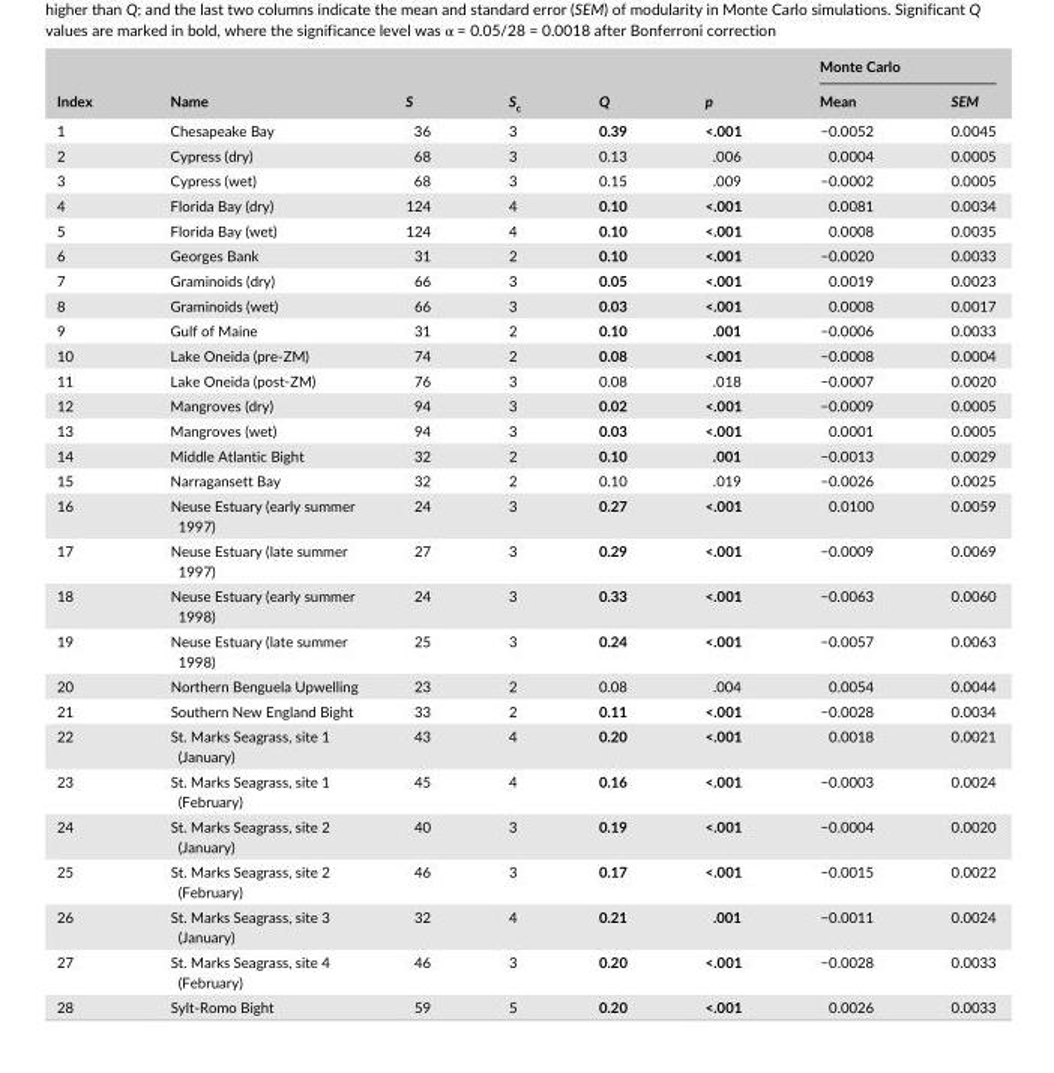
<table><thead><tr><td rowspan="2">Index</td><td rowspan="2">Name</td><td rowspan="2">S</td><td rowspan="2">S<sub>c</sub></td><td rowspan="2">Q</td><td rowspan="2">p</td><td colspan="2">Monte Carlo</td></tr><tr><td>Mean</td><td>SEM</td></tr></thead><tbody><tr><td>1</td><td>Chesapeake Bay</td><td>36</td><td>3</td><td>0.39</td><td>&lt;.001</td><td>−0.0052</td><td>0.0045</td></tr><tr><td>2</td><td>Cypress (dry)</td><td>68</td><td>3</td><td>0.13</td><td>.006</td><td>0.0004</td><td>0.0005</td></tr><tr><td>3</td><td>Cypress (wet)</td><td>68</td><td>3</td><td>0.15</td><td>.009</td><td>−0.0002</td><td>0.0005</td></tr><tr><td>4</td><td>Florida Bay (dry)</td><td>124</td><td>4</td><td>0.10</td><td>&lt;.001</td><td>0.0081</td><td>0.0034</td></tr><tr><td>5</td><td>Florida Bay (wet)</td><td>124</td><td>4</td><td>0.10</td><td>&lt;.001</td><td>0.0008</td><td>0.0035</td></tr><tr><td>6</td><td>Georges Bank</td><td>31</td><td>2</td><td>0.10</td><td>&lt;.001</td><td>−0.0020</td><td>0.0033</td></tr><tr><td>7</td><td>Graminoids (dry)</td><td>66</td><td>3</td><td>0.05</td><td>&lt;.001</td><td>0.0019</td><td>0.0023</td></tr><tr><td>8</td><td>Graminoids (wet)</td><td>66</td><td>3</td><td>0.03</td><td>&lt;.001</td><td>0.0008</td><td>0.0017</td></tr><tr><td>9</td><td>Gulf of Maine</td><td>31</td><td>2</td><td>0.10</td><td>.001</td><td>−0.0006</td><td>0.0033</td></tr><tr><td>10</td><td>Lake Oneida (pre- ZM)</td><td>74</td><td>2</td><td>0.08</td><td>&lt;.001</td><td>−0.0008</td><td>0.0004</td></tr><tr><td>11</td><td>Lake Oneida (post- ZM)</td><td>76</td><td>3</td><td>0.08</td><td>.018</td><td>−0.0007</td><td>0.0020</td></tr><tr><td>12</td><td>Mangroves (dry)</td><td>94</td><td>3</td><td>0.02</td><td>&lt;.001</td><td>−0.0009</td><td>0.0005</td></tr><tr><td>13</td><td>Mangroves (wet)</td><td>94</td><td>3</td><td>0.03</td><td>&lt;.001</td><td>0.0001</td><td>0.0005</td></tr><tr><td>14</td><td>Middle Atlantic Bight</td><td>32</td><td>2</td><td>0.10</td><td>.001</td><td>−0.0013</td><td>0.0029</td></tr><tr><td>15</td><td>Narragansett Bay</td><td>32</td><td>2</td><td>0.10</td><td>.019</td><td>−0.0026</td><td>0.0025</td></tr><tr><td>16</td><td>Neuse Estuary (early summer 1997)</td><td>24</td><td>3</td><td>0.27</td><td>&lt;.001</td><td>0.0100</td><td>0.0059</td></tr><tr><td>17</td><td>Neuse Estuary (late summer 1997)</td><td>27</td><td>3</td><td>0.29</td><td>&lt;.001</td><td>−0.0009</td><td>0.0069</td></tr><tr><td>18</td><td>Neuse Estuary (early summer 1998)</td><td>24</td><td>3</td><td>0.33</td><td>&lt;.001</td><td>−0.0063</td><td>0.0060</td></tr><tr><td>19</td><td>Neuse Estuary (late summer 1998)</td><td>25</td><td>3</td><td>0.24</td><td>&lt;.001</td><td>−0.0057</td><td>0.0063</td></tr><tr><td>20</td><td>Northern Benguela Upwelling</td><td>23</td><td>2</td><td>0.08</td><td>.004</td><td>0.0054</td><td>0.0044</td></tr><tr><td>21</td><td>Southern New England Bight</td><td>33</td><td>2</td><td>0.11</td><td>&lt;.001</td><td>−0.0028</td><td>0.0034</td></tr><tr><td>22</td><td>St. Marks Seagrass, site 1 (January)</td><td>43</td><td>4</td><td>0.20</td><td>&lt;.001</td><td>0.0018</td><td>0.0021</td></tr><tr><td>23</td><td>St. Marks Seagrass, site 1 (February)</td><td>45</td><td>4</td><td>0.16</td><td>&lt;.001</td><td>−0.0003</td><td>0.0024</td></tr><tr><td>24</td><td>St. Marks Seagrass, site 2 (January)</td><td>40</td><td>3</td><td>0.19</td><td>&lt;.001</td><td>−0.0004</td><td>0.0020</td></tr><tr><td>25</td><td>St. Marks Seagrass, site 2 (February)</td><td>46</td><td>3</td><td>0.17</td><td>&lt;.001</td><td>−0.0015</td><td>0.0022</td></tr><tr><td>26</td><td>St. Marks Seagrass, site 3 (January)</td><td>32</td><td>4</td><td>0.21</td><td>.001</td><td>−0.0011</td><td>0.0024</td></tr><tr><td>27</td><td>St. Marks Seagrass, site 4 (February)</td><td>46</td><td>3</td><td>0.20</td><td>&lt;.001</td><td>−0.0028</td><td>0.0033</td></tr><tr><td>28</td><td>Sylt- Romo Bight</td><td>59</td><td>5</td><td>0.20</td><td>&lt;.001</td><td>0.0026</td><td>0.0033</td></tr></tbody></table>